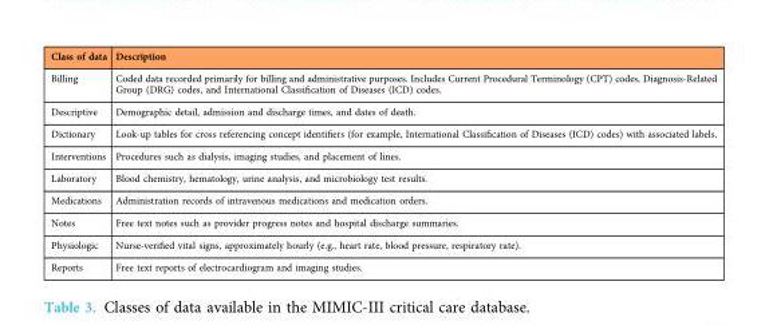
<table><thead><tr><td>Class of data</td><td>Description</td></tr></thead><tbody><tr><td>Billing</td><td>Coded data recorded primarily for billing and administrative purposes. Includes Current Procedural Terminology (CPT) codes, Diagnosis-Related Group (DRG) codes, and International Classification of Diseases (ICD) codes.</td></tr><tr><td>Descriptive</td><td>Demographic detail, admission and discharge times, and dates of death.</td></tr><tr><td>Dictionary</td><td>Look-up tables for cross referencing concept identifiers (for example, International Classification of Diseases (ICD) codes) with associated labels.</td></tr><tr><td>Interventions</td><td>Procedures such as dialysis, imaging studies, and placement of lines.</td></tr><tr><td>Laboratory</td><td>Blood chemistry, hematology, urine analysis, and microbiology test results.</td></tr><tr><td>Medications</td><td>Administration records of intravenous medications and medication orders.</td></tr><tr><td>Notes</td><td>Free text notes such as provider progress notes and hospital discharge summaries.</td></tr><tr><td>Physiologic</td><td>Nurse-verified vital signs, approximately hourly (e.g., heart rate, blood pressure, respiratory rate).</td></tr><tr><td>Reports</td><td>Free text reports of electrocardiogram and imaging studies.</td></tr></tbody></table>